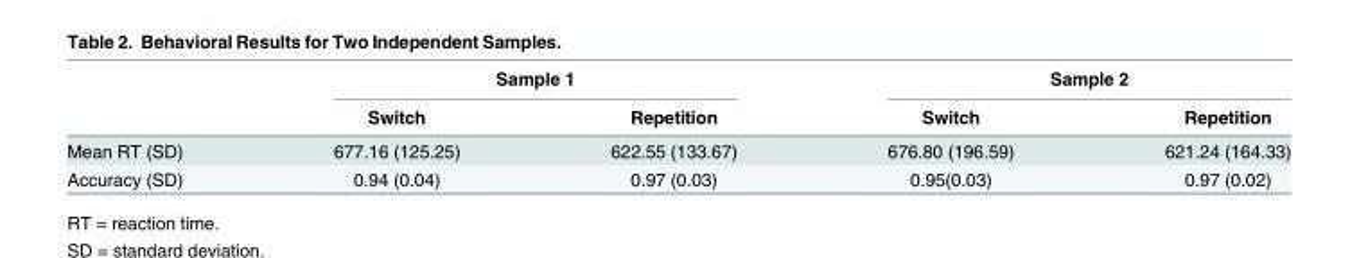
<table><thead><tr><td rowspan="2"></td><td colspan="2">Sample 1</td><td colspan="2">Sample 2</td></tr><tr><td>Switch</td><td>Repetition</td><td>Switch</td><td>Repetition</td></tr></thead><tbody><tr><td>Mean RT (SD)</td><td>677.16 (125.25)</td><td>622.55 (133.67)</td><td>676.80 (196.59)</td><td>621.24 (164.33)</td></tr><tr><td>Accuracy (SD)</td><td>0.94 (0.04)</td><td>0.97 (0.03)</td><td>0.95(0.03)</td><td>0.97 (0.02)</td></tr></tbody></table>